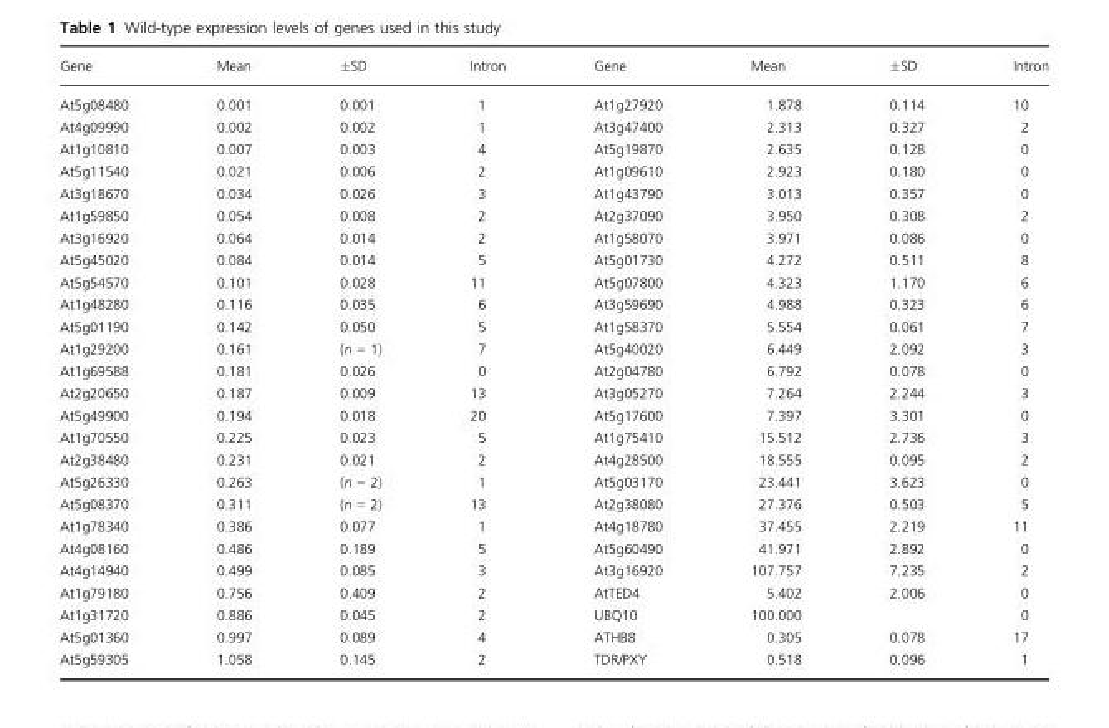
<table><thead><tr><td>Gene</td><td>Mean</td><td>±SD</td><td>Intron</td><td>Gene</td><td>Mean</td><td>±SD</td><td>Intron</td></tr></thead><tbody><tr><td>At5g08480</td><td>0.001</td><td>0.001</td><td>1</td><td>At1g27920</td><td>1.878</td><td>0.114</td><td>10</td></tr><tr><td>At4g09990</td><td>0.002</td><td>0.002</td><td>1</td><td>At3g47400</td><td>2.313</td><td>0.327</td><td>2</td></tr><tr><td>At1g10810</td><td>0.007</td><td>0.003</td><td>4</td><td>At5g19870</td><td>2.635</td><td>0.128</td><td>0</td></tr><tr><td>At5g11540</td><td>0.021</td><td>0.006</td><td>2</td><td>At1g09610</td><td>2.923</td><td>0.180</td><td>0</td></tr><tr><td>At3g18670</td><td>0.034</td><td>0.026</td><td>3</td><td>At1g43790</td><td>3.013</td><td>0.357</td><td>0</td></tr><tr><td>At1g59850</td><td>0.054</td><td>0.008</td><td>2</td><td>At2g37090</td><td>3.950</td><td>0.308</td><td>2</td></tr><tr><td>At3g16920</td><td>0.064</td><td>0.014</td><td>2</td><td>At1g58070</td><td>3.971</td><td>0.086</td><td>0</td></tr><tr><td>At5g45020</td><td>0.084</td><td>0.014</td><td>5</td><td>At5g01730</td><td>4.272</td><td>0.511</td><td>8</td></tr><tr><td>At5g54570</td><td>0.101</td><td>0.028</td><td>11</td><td>At5g07800</td><td>4.323</td><td>1.170</td><td>6</td></tr><tr><td>At1g48280</td><td>0.116</td><td>0.035</td><td>6</td><td>At3g59690</td><td>4.988</td><td>0.323</td><td>6</td></tr><tr><td>At5g01190</td><td>0.142</td><td>0.050</td><td>5</td><td>At1g58370</td><td>5.554</td><td>0.061</td><td>7</td></tr><tr><td>At1g29200</td><td>0.161</td><td>(n = 1)</td><td>7</td><td>At5g40020</td><td>6.449</td><td>2.092</td><td>3</td></tr><tr><td>At1g69588</td><td>0.181</td><td>0.026</td><td>0</td><td>At2g04780</td><td>6.792</td><td>0.078</td><td>0</td></tr><tr><td>At2g20650</td><td>0.187</td><td>0.009</td><td>13</td><td>At3g05270</td><td>7.264</td><td>2.244</td><td>3</td></tr><tr><td>At5g49900</td><td>0.194</td><td>0.018</td><td>20</td><td>At5g17600</td><td>7.397</td><td>3.301</td><td>0</td></tr><tr><td>At1g70550</td><td>0.225</td><td>0.023</td><td>5</td><td>At1g75410</td><td>15.512</td><td>2.736</td><td>3</td></tr><tr><td>At2g38480</td><td>0.231</td><td>0.021</td><td>2</td><td>At4g28500</td><td>18.555</td><td>0.095</td><td>2</td></tr><tr><td>At5g26330</td><td>0.263</td><td>(n = 2)</td><td>1</td><td>At5g03170</td><td>23.441</td><td>3.623</td><td>0</td></tr><tr><td>At5g08370</td><td>0.311</td><td>(n = 2)</td><td>13</td><td>At2g38080</td><td>27.376</td><td>0.503</td><td>5</td></tr><tr><td>At1g78340</td><td>0.386</td><td>0.077</td><td>1</td><td>At4g18780</td><td>37.455</td><td>2.219</td><td>11</td></tr><tr><td>At4g08160</td><td>0.486</td><td>0.189</td><td>5</td><td>At5g60490</td><td>41.971</td><td>2.892</td><td>0</td></tr><tr><td>At4g14940</td><td>0.499</td><td>0.085</td><td>3</td><td>At3g16920</td><td>107.757</td><td>7.235</td><td>2</td></tr><tr><td>At1g79180</td><td>0.756</td><td>0.409</td><td>2</td><td>AtTED4</td><td>5.402</td><td>2.006</td><td>0</td></tr><tr><td>At1g31720</td><td>0.886</td><td>0.045</td><td>2</td><td>UBQ10</td><td>100.000</td><td></td><td>0</td></tr><tr><td>At5g01360</td><td>0.997</td><td>0.089</td><td>4</td><td>ATHB8</td><td>0.305</td><td>0.078</td><td>17</td></tr><tr><td>At5g59305</td><td>1.058</td><td>0.145</td><td>2</td><td>TDR/PXY</td><td>0.518</td><td>0.096</td><td>1</td></tr></tbody></table>